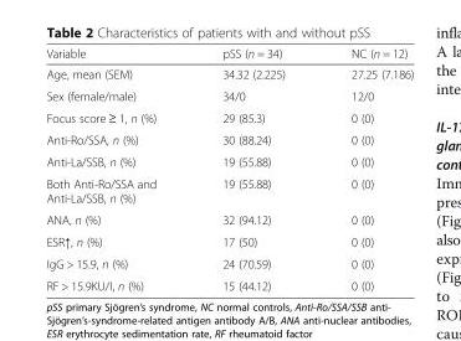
<table><thead><tr><td>Variable</td><td>pSS (n = 34)</td><td>NC (n = 12)</td></tr></thead><tbody><tr><td>Age, mean (SEM)</td><td>34.32 (2.225)</td><td>27.25 (7.186)</td></tr><tr><td>Sex (female/male)</td><td>34/0</td><td>12/0</td></tr><tr><td>Focus score ≥ 1, n (%)</td><td>29 (85.3)</td><td>0 (0)</td></tr><tr><td>Anti-Ro/SSA, n (%)</td><td>30 (88.24)</td><td>0 (0)</td></tr><tr><td>Anti-La/SSB, n (%)</td><td>19 (55.88)</td><td>0 (0)</td></tr><tr><td>Both Anti-Ro/SSA and Anti-La/SSB, n (%)</td><td>19 (55.88)</td><td>0 (0)</td></tr><tr><td>ANA, n (%)</td><td>32 (94.12)</td><td>0 (0)</td></tr><tr><td>ESR↑, n (%)</td><td>17 (50)</td><td>0 (0)</td></tr><tr><td>IgG &gt; 15.9, n (%)</td><td>24 (70.59)</td><td>0 (0)</td></tr><tr><td>RF &gt; 15.9KU/I, n (%)</td><td>15 (44.12)</td><td>0 (0)</td></tr></tbody></table>